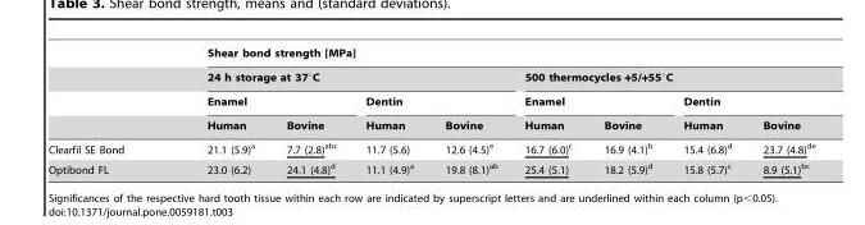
<table><thead><tr><td rowspan="4"></td><td colspan="8">Shear bond strength [MPa]</td></tr><tr><td colspan="4">24 h storage at 37°C</td><td colspan="4">500 thermocycles +5/+55°C</td></tr><tr><td colspan="2">Enamel</td><td colspan="2">Dentin</td><td colspan="2">Enamel</td><td colspan="2">Dentin</td></tr><tr><td>Human</td><td>Bovine</td><td>Human</td><td>Bovine</td><td>Human</td><td>Bovine</td><td>Human</td><td>Bovine</td></tr></thead><tbody><tr><td>Clearfil SE Bond</td><td>21.1 (5.9)<sup>a</sup></td><td>7.7 (2.8)<sup>abc</sup></td><td>11.7 (5.6)</td><td>12.6 (4.5)<sup>e</sup></td><td>16.7 (6.0)<sup>c</sup></td><td>16.9 (4.1)<sup>b</sup></td><td>15.4 (6.8)<sup>d</sup></td><td>23.7 (4.8)<sup>de</sup></td></tr><tr><td>Optibond FL</td><td>23.0 (6.2)</td><td>24.1 (4.8)<sup>d</sup></td><td>11.1 (4.9)<sup>a</sup></td><td>19.8 (8.1)<sup>ab</sup></td><td>25.4 (5.1)</td><td>18.2 (5.9)<sup>d</sup></td><td>15.8 (5.7)<sup>c</sup></td><td>8.9 (5.1)<sup>bc</sup></td></tr></tbody></table>